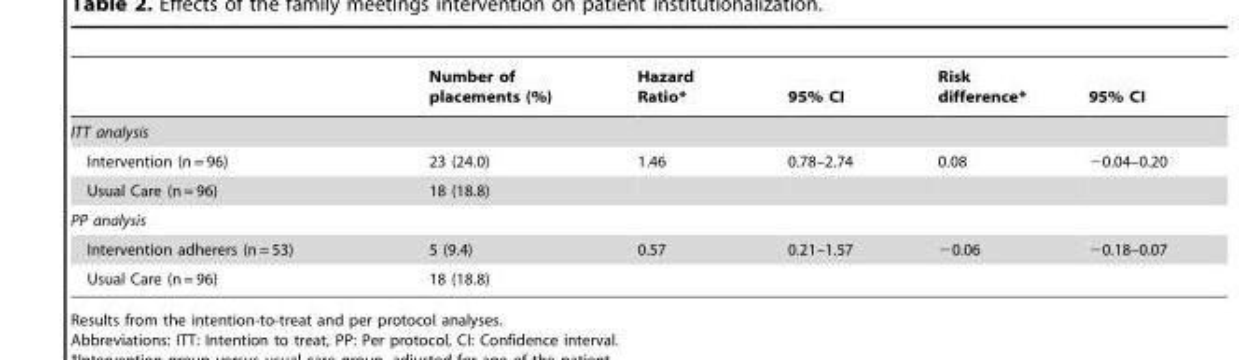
<table><thead><tr><td></td><td>Number of placements (%)</td><td>Hazard Ratio*</td><td>95% CI</td><td>Risk difference*</td><td>95% CI</td></tr></thead><tbody><tr><td colspan="6">ITT analysis</td></tr><tr><td>Intervention (n = 96)</td><td>23 (24.0)</td><td>1.46</td><td>0.78–2.74</td><td>0.08</td><td>−0.04–0.20</td></tr><tr><td>Usual Care (n = 96)</td><td>18 (18.8)</td><td></td><td></td><td></td><td></td></tr><tr><td colspan="6">PP analysis</td></tr><tr><td>Intervention adherers (n = 53)</td><td>5 (9.4)</td><td>0.57</td><td>0.21–1.57</td><td>−0.06</td><td>−0.18–0.07</td></tr><tr><td>Usual Care (n = 96)</td><td>18 (18.8)</td><td></td><td></td><td></td><td></td></tr></tbody></table>